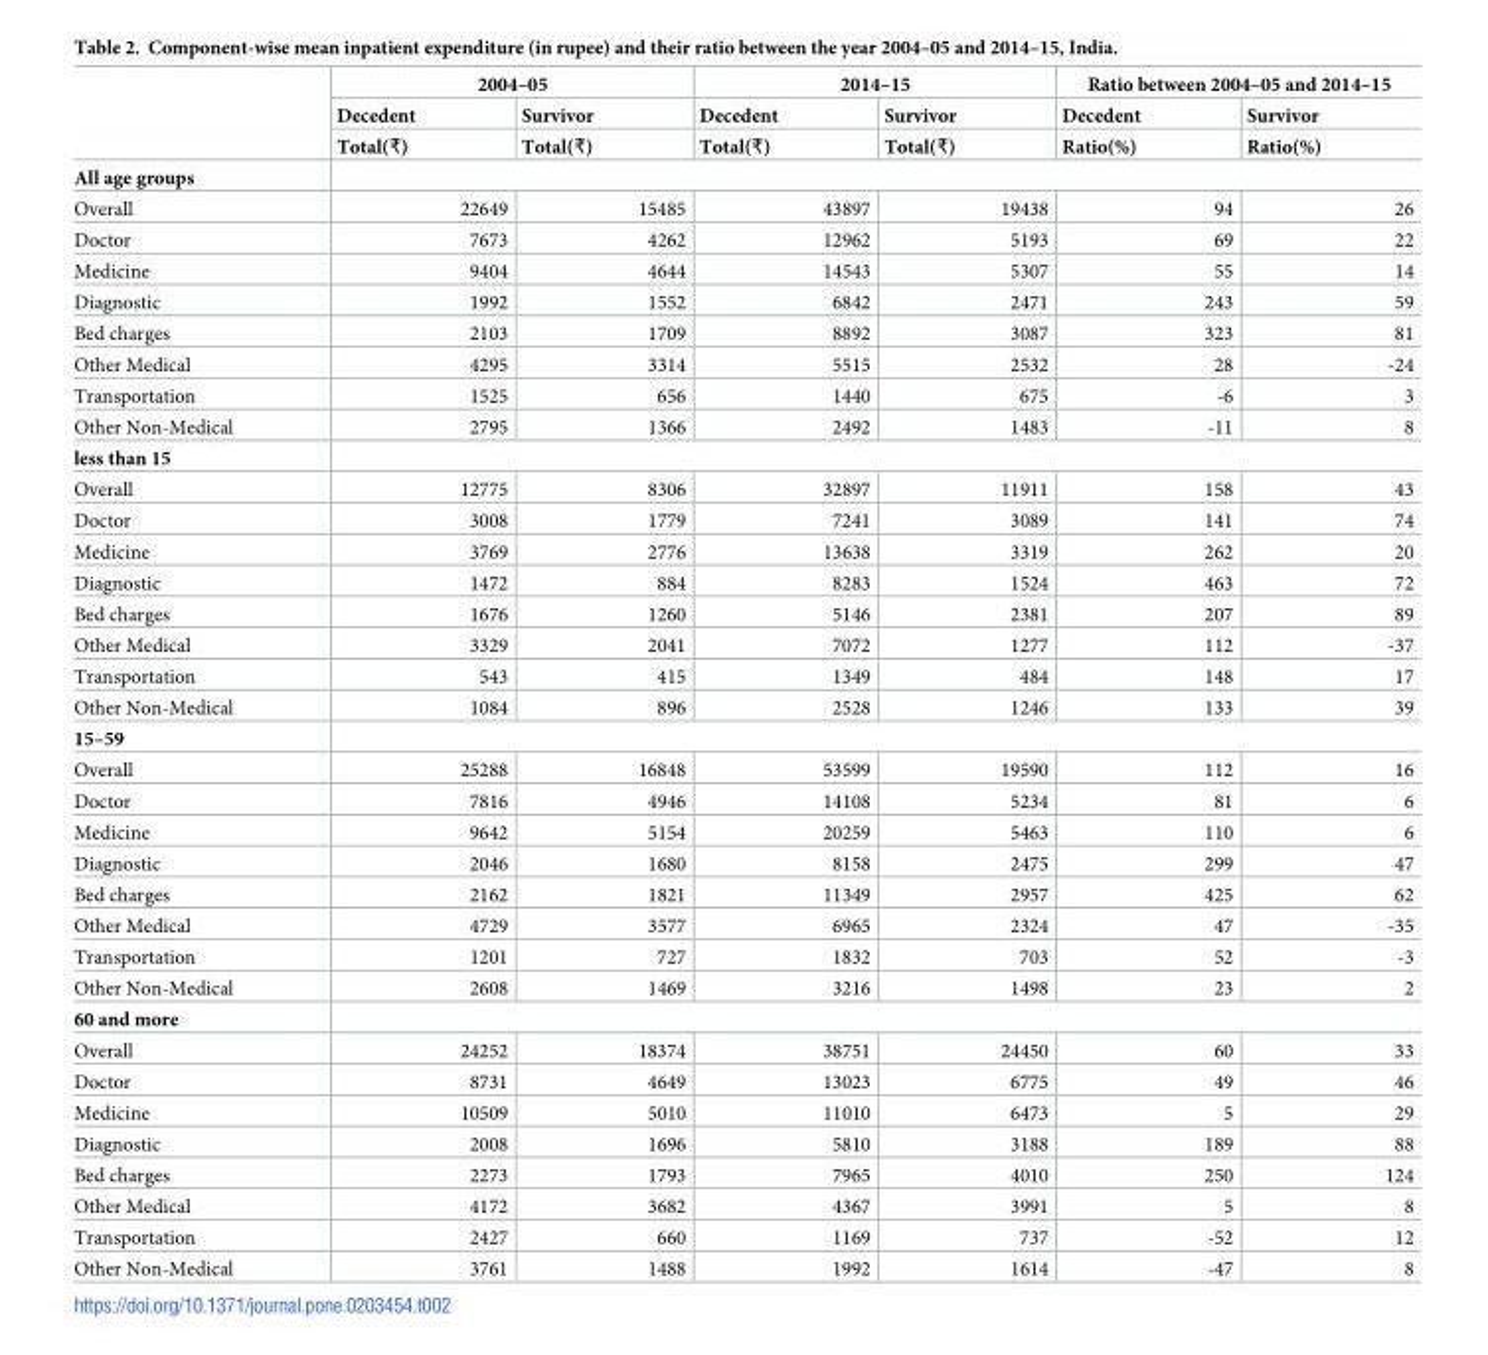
<table><thead><tr><td rowspan="3"></td><td colspan="2">2004–05</td><td colspan="2">2014–15</td><td colspan="2">Ratio between 2004–05 and 2014–15</td></tr><tr><td rowspan="2">Decedent Total(₹)</td><td rowspan="2">Survivor Total(₹)</td><td rowspan="2">Decedent Total(₹)</td><td rowspan="2">Survivor Total(₹)</td><td rowspan="2">Decedent Ratio(%)</td><td rowspan="2">Survivor Ratio(%)</td></tr><tr></tr></thead><tbody><tr><td colspan="7">All age groups</td></tr><tr><td>Overall</td><td>22649</td><td>15485</td><td>43897</td><td>19438</td><td>94</td><td>26</td></tr><tr><td>Doctor</td><td>7673</td><td>4262</td><td>12962</td><td>5193</td><td>69</td><td>22</td></tr><tr><td>Medicine</td><td>9404</td><td>4644</td><td>14543</td><td>5307</td><td>55</td><td>14</td></tr><tr><td>Diagnostic</td><td>1992</td><td>1552</td><td>6842</td><td>2471</td><td>243</td><td>59</td></tr><tr><td>Bed charges</td><td>2103</td><td>1709</td><td>8892</td><td>3087</td><td>323</td><td>81</td></tr><tr><td>Other Medical</td><td>4295</td><td>3314</td><td>5515</td><td>2532</td><td>28</td><td>-24</td></tr><tr><td>Transportation</td><td>1525</td><td>656</td><td>1440</td><td>675</td><td>-6</td><td>3</td></tr><tr><td>Other Non-Medical</td><td>2795</td><td>1366</td><td>2492</td><td>1483</td><td>-11</td><td>8</td></tr><tr><td colspan="7">less than 15</td></tr><tr><td>Overall</td><td>12775</td><td>8306</td><td>32897</td><td>11911</td><td>158</td><td>43</td></tr><tr><td>Doctor</td><td>3008</td><td>1779</td><td>7241</td><td>3089</td><td>141</td><td>74</td></tr><tr><td>Medicine</td><td>3769</td><td>2776</td><td>13638</td><td>3319</td><td>262</td><td>20</td></tr><tr><td>Diagnostic</td><td>1472</td><td>884</td><td>8283</td><td>1524</td><td>463</td><td>72</td></tr><tr><td>Bed charges</td><td>1676</td><td>1260</td><td>5146</td><td>2381</td><td>207</td><td>89</td></tr><tr><td>Other Medical</td><td>3329</td><td>2041</td><td>7072</td><td>1277</td><td>112</td><td>-37</td></tr><tr><td>Transportation</td><td>543</td><td>415</td><td>1349</td><td>484</td><td>148</td><td>17</td></tr><tr><td>Other Non-Medical</td><td>1084</td><td>896</td><td>2528</td><td>1246</td><td>133</td><td>39</td></tr><tr><td colspan="7">15–59</td></tr><tr><td>Overall</td><td>25288</td><td>16848</td><td>53599</td><td>19590</td><td>112</td><td>16</td></tr><tr><td>Doctor</td><td>7816</td><td>4946</td><td>14108</td><td>5234</td><td>81</td><td>6</td></tr><tr><td>Medicine</td><td>9642</td><td>5154</td><td>20259</td><td>5463</td><td>110</td><td>6</td></tr><tr><td>Diagnostic</td><td>2046</td><td>1680</td><td>8158</td><td>2475</td><td>299</td><td>47</td></tr><tr><td>Bed charges</td><td>2162</td><td>1821</td><td>11349</td><td>2957</td><td>425</td><td>62</td></tr><tr><td>Other Medical</td><td>4729</td><td>3577</td><td>6965</td><td>2324</td><td>47</td><td>-35</td></tr><tr><td>Transportation</td><td>1201</td><td>727</td><td>1832</td><td>703</td><td>52</td><td>-3</td></tr><tr><td>Other Non-Medical</td><td>2608</td><td>1469</td><td>3216</td><td>1498</td><td>23</td><td>2</td></tr><tr><td colspan="7">60 and more</td></tr><tr><td>Overall</td><td>24252</td><td>18374</td><td>38751</td><td>24450</td><td>60</td><td>33</td></tr><tr><td>Doctor</td><td>8731</td><td>4649</td><td>13023</td><td>6775</td><td>49</td><td>46</td></tr><tr><td>Medicine</td><td>10509</td><td>5010</td><td>11010</td><td>6473</td><td>5</td><td>29</td></tr><tr><td>Diagnostic</td><td>2008</td><td>1696</td><td>5810</td><td>3188</td><td>189</td><td>88</td></tr><tr><td>Bed charges</td><td>2273</td><td>1793</td><td>7965</td><td>4010</td><td>250</td><td>124</td></tr><tr><td>Other Medical</td><td>4172</td><td>3682</td><td>4367</td><td>3991</td><td>5</td><td>8</td></tr><tr><td>Transportation</td><td>2427</td><td>660</td><td>1169</td><td>737</td><td>-52</td><td>12</td></tr><tr><td>Other Non-Medical</td><td>3761</td><td>1488</td><td>1992</td><td>1614</td><td>-47</td><td>8</td></tr></tbody></table>